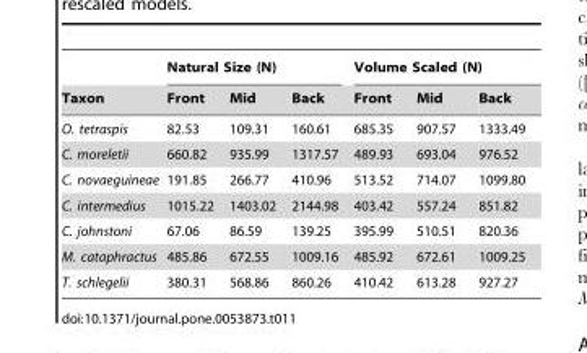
<table><thead><tr><td rowspan="2">Taxon</td><td colspan="3">Natural Size (N)</td><td colspan="3">Volume Scaled (N)</td></tr><tr><td>Front</td><td>Mid</td><td>Back</td><td>Front</td><td>Mid</td><td>Back</td></tr></thead><tbody><tr><td>O. tetraspis</td><td>82.53</td><td>109.31</td><td>160.61</td><td>685.35</td><td>907.57</td><td>1333.49</td></tr><tr><td>C. moreletii</td><td>660.82</td><td>935.99</td><td>1317.57</td><td>489.93</td><td>693.04</td><td>976.52</td></tr><tr><td>C. novaeguineae</td><td>191.85</td><td>266.77</td><td>410.96</td><td>513.52</td><td>714.07</td><td>1099.80</td></tr><tr><td>C. intermedius</td><td>1015.22</td><td>1403.02</td><td>2144.98</td><td>403.42</td><td>557.24</td><td>851.82</td></tr><tr><td>C. johnstoni</td><td>67.06</td><td>86.59</td><td>139.25</td><td>395.99</td><td>510.51</td><td>820.36</td></tr><tr><td>M. cataphractus</td><td>485.86</td><td>672.55</td><td>1009.16</td><td>485.92</td><td>672.61</td><td>1009.25</td></tr><tr><td>T. schlegelii</td><td>380.31</td><td>568.86</td><td>860.26</td><td>410.42</td><td>613.28</td><td>927.27</td></tr></tbody></table>